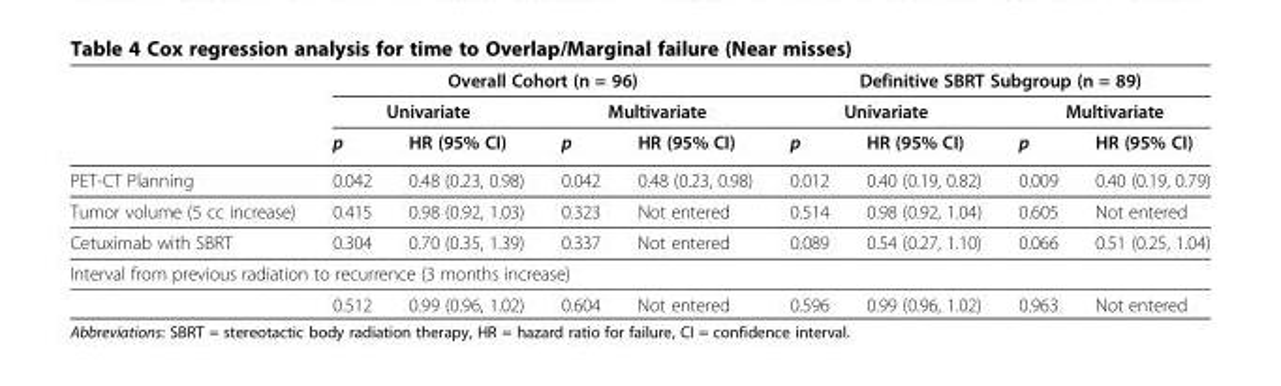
<table><thead><tr><td rowspan="3"></td><td colspan="4">Overall Cohort (n = 96)</td><td colspan="4">Definitive SBRT Subgroup (n = 89)</td></tr><tr><td colspan="2">Univariate</td><td colspan="2">Multivariate</td><td colspan="2">Univariate</td><td colspan="2">Multivariate</td></tr><tr><td>p</td><td>HR (95% CI)</td><td>p</td><td>HR (95% CI)</td><td>p</td><td>HR (95% CI)</td><td>p</td><td>HR (95% CI)</td></tr></thead><tbody><tr><td>PET-CT Planning</td><td>0.042</td><td>0.48 (0.23, 0.98)</td><td>0.042</td><td>0.48 (0.23, 0.98)</td><td>0.012</td><td>0.40 (0.19, 0.82)</td><td>0.009</td><td>0.40 (0.19, 0.79)</td></tr><tr><td>Tumor volume (5 cc increase)</td><td>0.415</td><td>0.98 (0.92, 1.03)</td><td>0.323</td><td>Not entered</td><td>0.514</td><td>0.98 (0.92, 1.04)</td><td>0.605</td><td>Not entered</td></tr><tr><td>Cetuximab with SBRT</td><td>0.304</td><td>0.70 (0.35, 1.39)</td><td>0.337</td><td>Not entered</td><td>0.089</td><td>0.54 (0.27, 1.10)</td><td>0.066</td><td>0.51 (0.25, 1.04)</td></tr><tr><td colspan="9">Interval from previous radiation to recurrence (3 months increase)</td></tr><tr><td></td><td>0.512</td><td>0.99 (0.96, 1.02)</td><td>0.604</td><td>Not entered</td><td>0.596</td><td>0.99 (0.96, 1.02)</td><td>0.963</td><td>Not entered</td></tr></tbody></table>